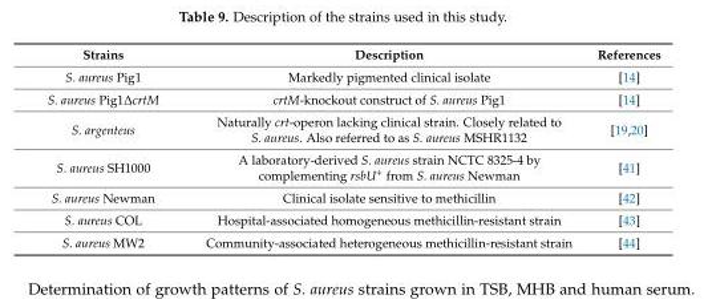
<table><thead><tr><td>Strains</td><td>Description</td><td>References</td></tr></thead><tbody><tr><td>S. aureus Pig1</td><td>Markedly pigmented clinical isolate</td><td>[14]</td></tr><tr><td>S. aureus Pig1∆crtM</td><td>crtM-knockout construct of S. aureus Pig1</td><td>[14]</td></tr><tr><td>S. argenteus</td><td>Naturally crt-operon lacking clinical strain. Closely related to S. aureus. Also referred to as S. aureus MSHR1132</td><td>[19,20]</td></tr><tr><td>S. aureus SH1000</td><td>A laboratory-derived S. aureus strain NCTC 8325-4 by complementing rsbU<sup>+</sup> from S. aureus Newman</td><td>[41]</td></tr><tr><td>S. aureus Newman</td><td>Clinical isolate sensitive to methicillin</td><td>[42]</td></tr><tr><td>S. aureus COL</td><td>Hospital-associated homogeneous methicillin-resistant strain</td><td>[43]</td></tr><tr><td>S. aureus MW2</td><td>Community-associated heterogeneous methicillin-resistant strain</td><td>[44]</td></tr></tbody></table>